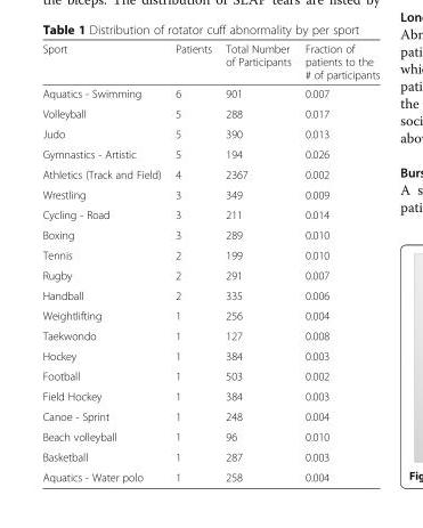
<table><thead><tr><td>Sport</td><td>Patients</td><td>Total Number of Participants</td><td>Fraction of patients to the # of participants</td></tr></thead><tbody><tr><td>Aquatics - Swimming</td><td>6</td><td>901</td><td>0.007</td></tr><tr><td>Volleyball</td><td>5</td><td>288</td><td>0.017</td></tr><tr><td>Judo</td><td>5</td><td>390</td><td>0.013</td></tr><tr><td>Gymnastics - Artistic</td><td>5</td><td>194</td><td>0.026</td></tr><tr><td>Athletics (Track and Field)</td><td>4</td><td>2367</td><td>0.002</td></tr><tr><td>Wrestling</td><td>3</td><td>349</td><td>0.009</td></tr><tr><td>Cycling - Road</td><td>3</td><td>211</td><td>0.014</td></tr><tr><td>Boxing</td><td>3</td><td>289</td><td>0.010</td></tr><tr><td>Tennis</td><td>2</td><td>199</td><td>0.010</td></tr><tr><td>Rugby</td><td>2</td><td>291</td><td>0.007</td></tr><tr><td>Handball</td><td>2</td><td>335</td><td>0.006</td></tr><tr><td>Weightlifting</td><td>1</td><td>256</td><td>0.004</td></tr><tr><td>Taekwondo</td><td>1</td><td>127</td><td>0.008</td></tr><tr><td>Hockey</td><td>1</td><td>384</td><td>0.003</td></tr><tr><td>Football</td><td>1</td><td>503</td><td>0.002</td></tr><tr><td>Field Hockey</td><td>1</td><td>384</td><td>0.003</td></tr><tr><td>Canoe - Sprint</td><td>1</td><td>248</td><td>0.004</td></tr><tr><td>Beach volleyball</td><td>1</td><td>96</td><td>0.010</td></tr><tr><td>Basketball</td><td>1</td><td>287</td><td>0.003</td></tr><tr><td>Aquatics - Water polo</td><td>1</td><td>258</td><td>0.004</td></tr></tbody></table>